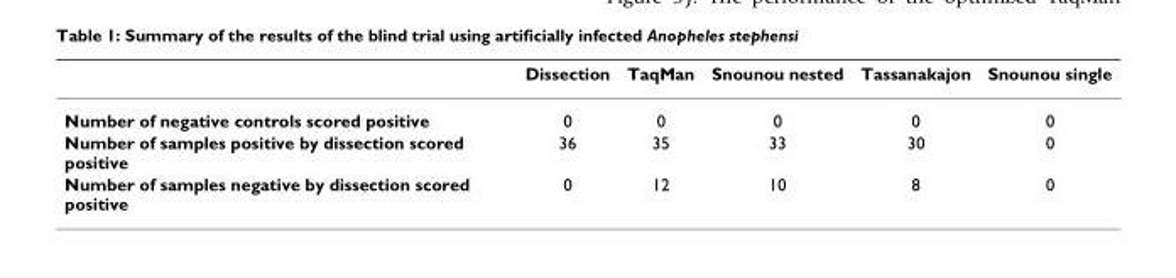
<table><thead><tr><td></td><td>Dissection</td><td>TaqMan</td><td>Snounou nested</td><td>Tassanakajon</td><td>Snounou single</td></tr></thead><tbody><tr><td>Number of negative controls scored positive</td><td>0</td><td>0</td><td>0</td><td>0</td><td>0</td></tr><tr><td>Number of samples positive by dissection scored positive</td><td>36</td><td>35</td><td>33</td><td>30</td><td>0</td></tr><tr><td>Number of samples negative by dissection scored positive</td><td>0</td><td>12</td><td>10</td><td>8</td><td>0</td></tr></tbody></table>